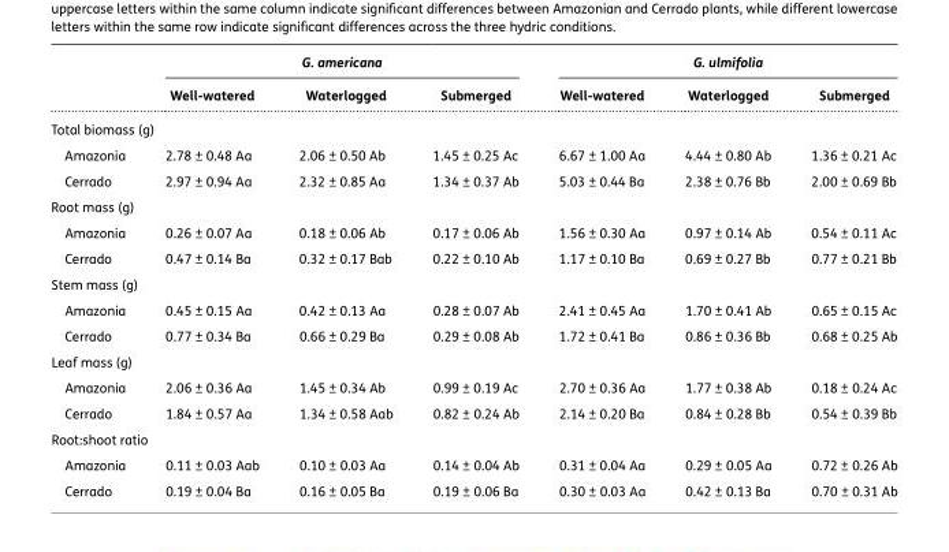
<table><thead><tr><td rowspan="2"></td><td colspan="3">G. americana</td><td colspan="3">G. ulmifolia</td></tr><tr><td>Well-watered</td><td>Waterlogged</td><td>Submerged</td><td>Well-watered</td><td>Waterlogged</td><td>Submerged</td></tr></thead><tbody><tr><td colspan="7">Total biomass (g)</td></tr><tr><td>Amazonia</td><td>2.78 ± 0.48 Aa</td><td>2.06 ± 0.50 Ab</td><td>1.45 ± 0.25 Ac</td><td>6.67 ± 1.00 Aa</td><td>4.44 ± 0.80 Ab</td><td>1.36 ± 0.21 Ac</td></tr><tr><td>Cerrado</td><td>2.97 ± 0.94 Aa</td><td>2.32 ± 0.85 Aa</td><td>1.34 ± 0.37 Ab</td><td>5.03 ± 0.44 Ba</td><td>2.38 ± 0.76 Bb</td><td>2.00 ± 0.69 Bb</td></tr><tr><td colspan="7">Root mass (g)</td></tr><tr><td>Amazonia</td><td>0.26 ± 0.07 Aa</td><td>0.18 ± 0.06 Ab</td><td>0.17 ± 0.06 Ab</td><td>1.56 ± 0.30 Aa</td><td>0.97 ± 0.14 Ab</td><td>0.54 ± 0.11 Ac</td></tr><tr><td>Cerrado</td><td>0.47 ± 0.14 Ba</td><td>0.32 ± 0.17 Bab</td><td>0.22 ± 0.10 Ab</td><td>1.17 ± 0.10 Ba</td><td>0.69 ± 0.27 Bb</td><td>0.77 ± 0.21 Bb</td></tr><tr><td colspan="7">Stem mass (g)</td></tr><tr><td>Amazonia</td><td>0.45 ± 0.15 Aa</td><td>0.42 ± 0.13 Aa</td><td>0.28 ± 0.07 Ab</td><td>2.41 ± 0.45 Aa</td><td>1.70 ± 0.41 Ab</td><td>0.65 ± 0.15 Ac</td></tr><tr><td>Cerrado</td><td>0.77 ± 0.34 Ba</td><td>0.66 ± 0.29 Ba</td><td>0.29 ± 0.08 Ab</td><td>1.72 ± 0.41 Ba</td><td>0.86 ± 0.36 Bb</td><td>0.68 ± 0.25 Ab</td></tr><tr><td colspan="7">Leaf mass (g)</td></tr><tr><td>Amazonia</td><td>2.06 ± 0.36 Aa</td><td>1.45 ± 0.34 Ab</td><td>0.99 ± 0.19 Ac</td><td>2.70 ± 0.36 Aa</td><td>1.77 ± 0.38 Ab</td><td>0.18 ± 0.24 Ac</td></tr><tr><td>Cerrado</td><td>1.84 ± 0.57 Aa</td><td>1.34 ± 0.58 Aab</td><td>0.82 ± 0.24 Ab</td><td>2.14 ± 0.20 Ba</td><td>0.84 ± 0.28 Bb</td><td>0.54 ± 0.39 Bb</td></tr><tr><td colspan="7">Root:shoot ratio</td></tr><tr><td>Amazonia</td><td>0.11 ± 0.03 Aab</td><td>0.10 ± 0.03 Aa</td><td>0.14 ± 0.04 Ab</td><td>0.31 ± 0.04 Aa</td><td>0.29 ± 0.05 Aa</td><td>0.72 ± 0.26 Ab</td></tr><tr><td>Cerrado</td><td>0.19 ± 0.04 Ba</td><td>0.16 ± 0.05 Ba</td><td>0.19 ± 0.06 Ba</td><td>0.30 ± 0.03 Aa</td><td>0.42 ± 0.13 Ba</td><td>0.70 ± 0.31 Ab</td></tr></tbody></table>